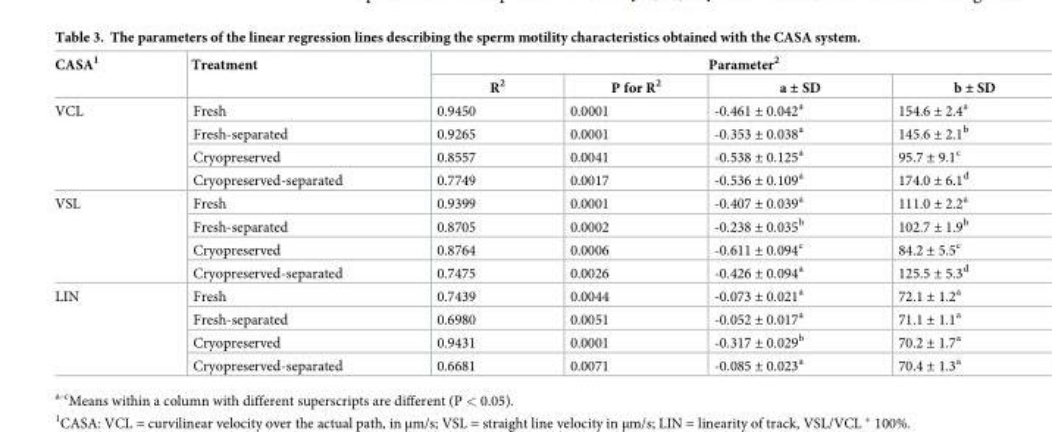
<table><thead><tr><td rowspan="2">CASA<sup>1</sup></td><td rowspan="2">Treatment</td><td colspan="4">Parameter<sup>2</sup></td></tr><tr><td>R<sup>2</sup></td><td>P for R<sup>2</sup></td><td>a ± SD</td><td>b ± SD</td></tr></thead><tbody><tr><td rowspan="4">VCL</td><td>Fresh</td><td>0.9450</td><td>0.0001</td><td>-0.461 ± 0.042<sup>a</sup></td><td>154.6 ± 2.4<sup>a</sup></td></tr><tr><td>Fresh-separated</td><td>0.9265</td><td>0.0001</td><td>-0.353 ± 0.038<sup>a</sup></td><td>145.6 ± 2.1<sup>b</sup></td></tr><tr><td>Cryopreserved</td><td>0.8557</td><td>0.0041</td><td>-0.538 ± 0.125<sup>a</sup></td><td>95.7 ± 9.1<sup>c</sup></td></tr><tr><td>Cryopreserved-separated</td><td>0.7749</td><td>0.0017</td><td>-0.536 ± 0.109<sup>a</sup></td><td>174.0 ± 6.1<sup>d</sup></td></tr><tr><td rowspan="4">VSL</td><td>Fresh</td><td>0.9399</td><td>0.0001</td><td>-0.407 ± 0.039<sup>a</sup></td><td>111.0 ± 2.2<sup>a</sup></td></tr><tr><td>Fresh-separated</td><td>0.8705</td><td>0.0002</td><td>-0.238 ± 0.035<sup>b</sup></td><td>102.7 ± 1.9<sup>b</sup></td></tr><tr><td>Cryopreserved</td><td>0.8764</td><td>0.0006</td><td>-0.611 ± 0.094<sup>c</sup></td><td>84.2 ± 5.5<sup>c</sup></td></tr><tr><td>Cryopreserved-separated</td><td>0.7475</td><td>0.0026</td><td>-0.426 ± 0.094<sup>a</sup></td><td>125.5 ± 5.3<sup>d</sup></td></tr><tr><td rowspan="4">LIN</td><td>Fresh</td><td>0.7439</td><td>0.0044</td><td>-0.073 ± 0.021<sup>a</sup></td><td>72.1 ± 1.2<sup>a</sup></td></tr><tr><td>Fresh-separated</td><td>0.6980</td><td>0.0051</td><td>-0.052 ± 0.017<sup>a</sup></td><td>71.1 ± 1.1<sup>a</sup></td></tr><tr><td>Cryopreserved</td><td>0.9431</td><td>0.0001</td><td>-0.317 ± 0.029<sup>b</sup></td><td>70.2 ± 1.7<sup>a</sup></td></tr><tr><td>Cryopreserved-separated</td><td>0.6681</td><td>0.0071</td><td>-0.085 ± 0.023<sup>a</sup></td><td>70.4 ± 1.3<sup>a</sup></td></tr></tbody></table>